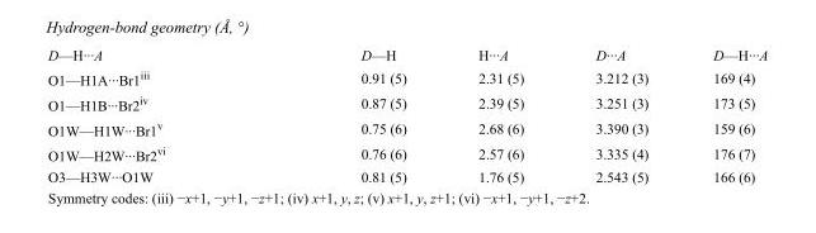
<table><tbody><tr><td>D—H···A</td><td>D—H</td><td>H···A</td><td>D···A</td><td>D—H···A</td></tr><tr><td>O1—H1A···Br1<sup>iii</sup></td><td>0.91 (5)</td><td>2.31 (5)</td><td>3.212 (3)</td><td>169 (4)</td></tr><tr><td>O1—H1B···Br2<sup>iv</sup></td><td>0.87 (5)</td><td>2.39 (5)</td><td>3.251 (3)</td><td>173 (5)</td></tr><tr><td>O1W—H1W···Br1<sup>v</sup></td><td>0.75 (6)</td><td>2.68 (6)</td><td>3.390 (3)</td><td>159 (6)</td></tr><tr><td>O1W—H2W···Br2<sup>vi</sup></td><td>0.76 (6)</td><td>2.57 (6)</td><td>3.335 (4)</td><td>176 (7)</td></tr><tr><td>O3—H3W···O1W</td><td>0.81 (5)</td><td>1.76 (5)</td><td>2.543 (5)</td><td>166 (6)</td></tr></tbody></table>